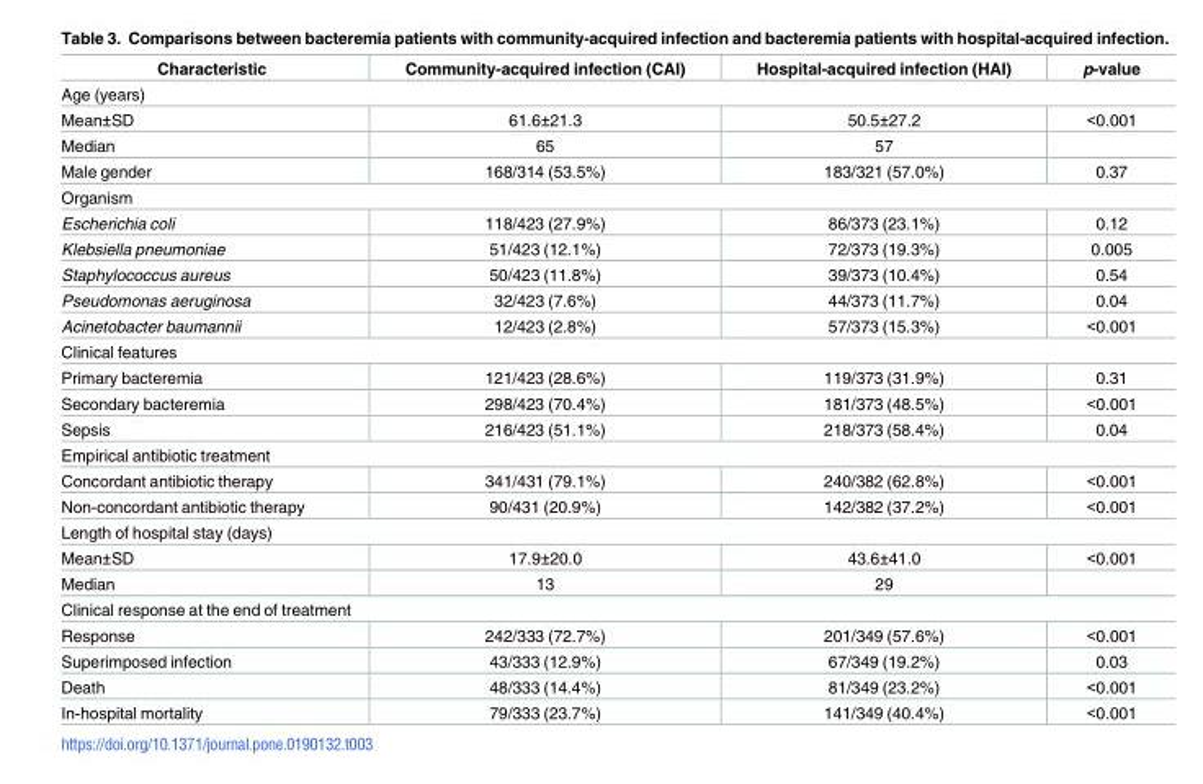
<table><thead><tr><td>Characteristic</td><td>Community-acquired infection (CAI)</td><td>Hospital-acquired infection (HAI)</td><td>p-value</td></tr></thead><tbody><tr><td colspan="4">Age (years)</td></tr><tr><td>Mean±SD</td><td>61.6±21.3</td><td>50.5±27.2</td><td>&lt;0.001</td></tr><tr><td>Median</td><td>65</td><td>57</td><td></td></tr><tr><td>Male gender</td><td>168/314 (53.5%)</td><td>183/321 (57.0%)</td><td>0.37</td></tr><tr><td colspan="4">Organism</td></tr><tr><td>Escherichia coli</td><td>118/423 (27.9%)</td><td>86/373 (23.1%)</td><td>0.12</td></tr><tr><td>Klebsiella pneumoniae</td><td>51/423 (12.1%)</td><td>72/373 (19.3%)</td><td>0.005</td></tr><tr><td>Staphylococcus aureus</td><td>50/423 (11.8%)</td><td>39/373 (10.4%)</td><td>0.54</td></tr><tr><td>Pseudomonas aeruginosa</td><td>32/423 (7.6%)</td><td>44/373 (11.7%)</td><td>0.04</td></tr><tr><td>Acinetobacter baumannii</td><td>12/423 (2.8%)</td><td>57/373 (15.3%)</td><td>&lt;0.001</td></tr><tr><td colspan="4">Clinical features</td></tr><tr><td>Primary bacteremia</td><td>121/423 (28.6%)</td><td>119/373 (31.9%)</td><td>0.31</td></tr><tr><td>Secondary bacteremia</td><td>298/423 (70.4%)</td><td>181/373 (48.5%)</td><td>&lt;0.001</td></tr><tr><td>Sepsis</td><td>216/423 (51.1%)</td><td>218/373 (58.4%)</td><td>0.04</td></tr><tr><td colspan="4">Empirical antibiotic treatment</td></tr><tr><td>Concordant antibiotic therapy</td><td>341/431 (79.1%)</td><td>240/382 (62.8%)</td><td>&lt;0.001</td></tr><tr><td>Non-concordant antibiotic therapy</td><td>90/431 (20.9%)</td><td>142/382 (37.2%)</td><td>&lt;0.001</td></tr><tr><td colspan="4">Length of hospital stay (days)</td></tr><tr><td>Mean±SD</td><td>17.9±20.0</td><td>43.6±41.0</td><td>&lt;0.001</td></tr><tr><td>Median</td><td>13</td><td>29</td><td></td></tr><tr><td colspan="4">Clinical response at the end of treatment</td></tr><tr><td>Response</td><td>242/333 (72.7%)</td><td>201/349 (57.6%)</td><td>&lt;0.001</td></tr><tr><td>Superimposed infection</td><td>43/333 (12.9%)</td><td>67/349 (19.2%)</td><td>0.03</td></tr><tr><td>Death</td><td>48/333 (14.4%)</td><td>81/349 (23.2%)</td><td>&lt;0.001</td></tr><tr><td>In-hospital mortality</td><td>79/333 (23.7%)</td><td>141/349 (40.4%)</td><td>&lt;0.001</td></tr></tbody></table>